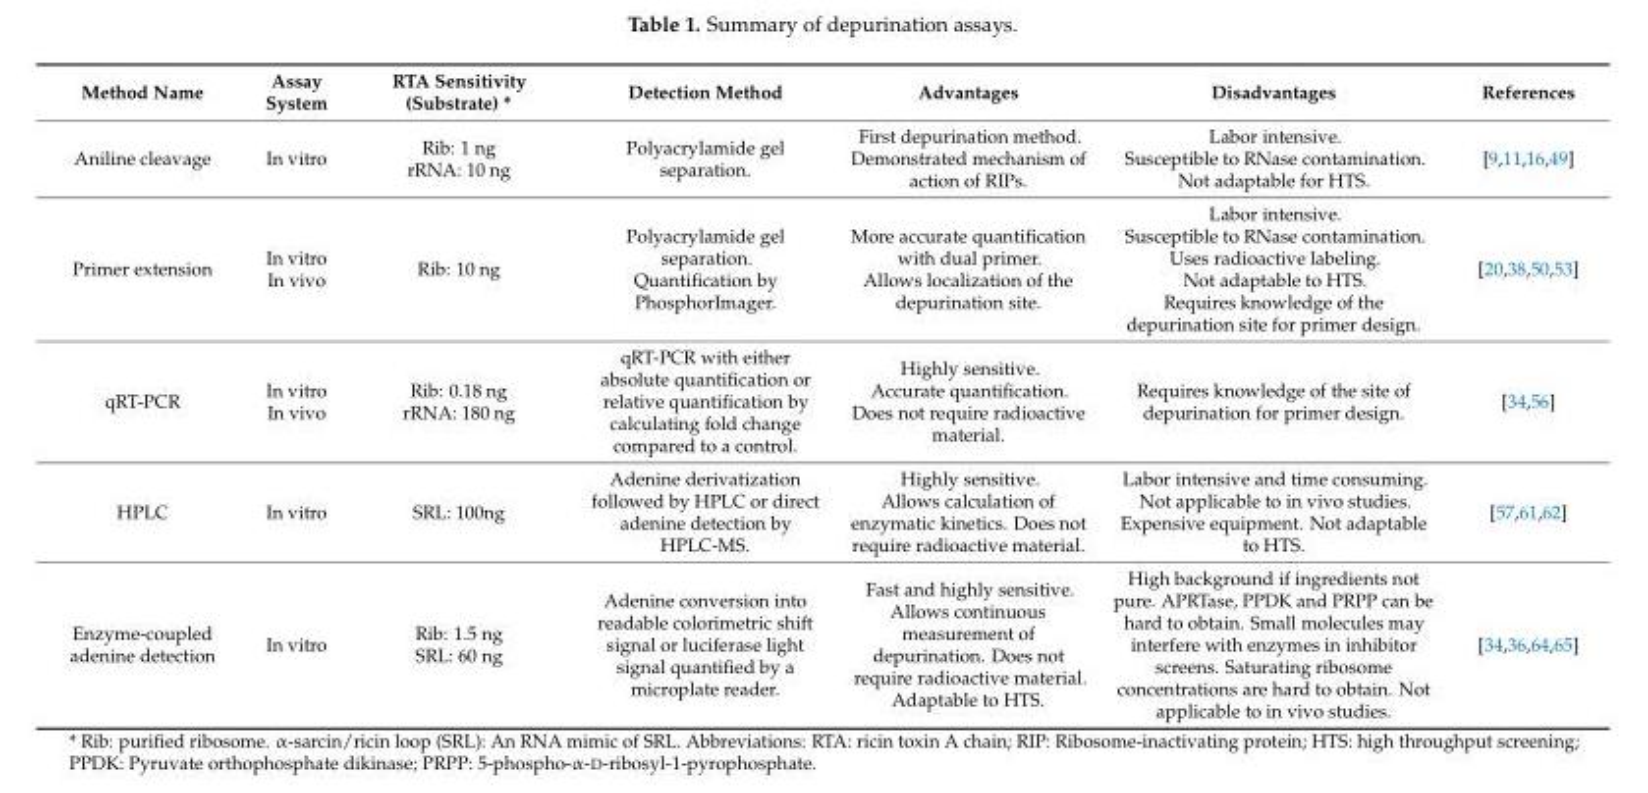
<table><thead><tr><td>Method Name</td><td>Assay System</td><td>RTA Sensitivity (Substrate) *</td><td>Detection Method</td><td>Advantages</td><td>Disadvantages</td><td>References</td></tr></thead><tbody><tr><td>Aniline cleavage</td><td>In vitro</td><td>Rib: 1 ng rRNA: 10 ng</td><td>Polyacrylamide gel separation.</td><td>First depurination method. Demonstrated mechanism of action of RIPs.</td><td>Labor intensive. Susceptible to RNase contamination. Not adaptable for HTS.</td><td>[9,11,16,49]</td></tr><tr><td>Primer extension</td><td>In vitro In vivo</td><td>Rib: 10 ng</td><td>Polyacrylamide gel separation. Quantification by PhosphorImager.</td><td>More accurate quantification with dual primer. Allows localization of the depurination site.</td><td>Labor intensive. Susceptible to RNase contamination. Uses radioactive labeling. Not adaptable to HTS. Requires knowledge of the depurination site for primer design.</td><td>[20,38,50,53]</td></tr><tr><td>qRT-PCR</td><td>In vitro In vivo</td><td>Rib: 0.18 ng rRNA: 180 ng</td><td>qRT-PCR with either absolute quantification or relative quantification by calculating fold change compared to a control.</td><td>Highly sensitive. Accurate quantification. Does not require radioactive material.</td><td>Requires knowledge of the site of depurination for primer design.</td><td>[34,56]</td></tr><tr><td>HPLC</td><td>In vitro</td><td>SRL: 100ng</td><td>Adenine derivatization followed by HPLC or direct adenine detection by HPLC-MS.</td><td>Highly sensitive. Allows calculation of enzymatic kinetics. Does not require radioactive material.</td><td>Labor intensive and time consuming. Not applicable to in vivo studies. Expensive equipment. Not adaptable to HTS.</td><td>[57,61,62]</td></tr><tr><td>Enzyme-coupled adenine detection</td><td>In vitro</td><td>Rib: 1.5 ng SRL: 60 ng</td><td>Adenine conversion into readable colorimetric shift signal or luciferase light signal quantified by a microplate reader.</td><td>Fast and highly sensitive. Allows continuous measurement of depurination. Does not require radioactive material. Adaptable to HTS.</td><td>High background if ingredients not pure. APRTase, PPDK and PRPP can be hard to obtain. Small molecules may interfere with enzymes in inhibitor screens. Saturating ribosome concentrations are hard to obtain. Not applicable to in vivo studies.</td><td>[34,36,64,65]</td></tr></tbody></table>